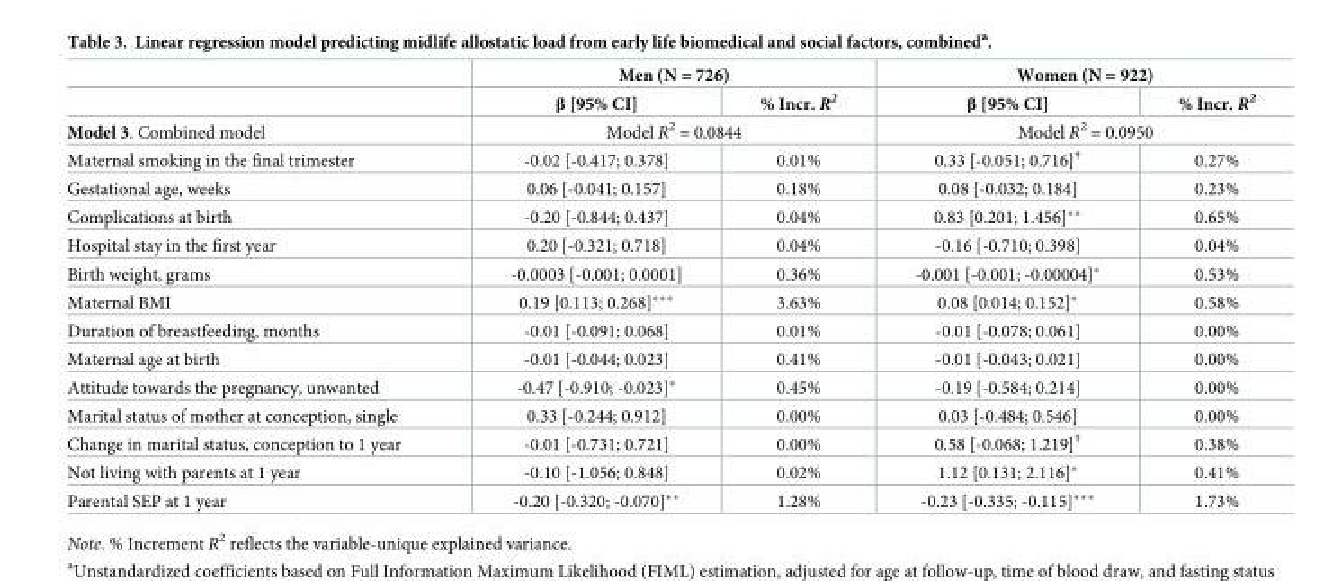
<table><thead><tr><td rowspan="2"></td><td colspan="2">Men (N = 726)</td><td colspan="2">Women (N = 922)</td></tr><tr><td>β [95% CI]</td><td>% Incr. R<sup>2</sup></td><td>β [95% CI]</td><td>% Incr. R<sup>2</sup></td></tr></thead><tbody><tr><td>Model 3. Combined model</td><td colspan="2">Model R<sup>2</sup> = 0.0844</td><td colspan="2">Model R<sup>2</sup> = 0.0950</td></tr><tr><td>Maternal smoking in the final trimester</td><td>-0.02 [-0.417; 0.378]</td><td>0.01%</td><td>0.33 [-0.051; 0.716]<sup>†</sup></td><td>0.27%</td></tr><tr><td>Gestational age, weeks</td><td>0.06 [-0.041; 0.157]</td><td>0.18%</td><td>0.08 [-0.032; 0.184]</td><td>0.23%</td></tr><tr><td>Complications at birth</td><td>-0.20 [-0.844; 0.437]</td><td>0.04%</td><td>0.83 [0.201; 1.456]**</td><td>0.65%</td></tr><tr><td>Hospital stay in the first year</td><td>0.20 [-0.321; 0.718]</td><td>0.04%</td><td>-0.16 [-0.710; 0.398]</td><td>0.04%</td></tr><tr><td>Birth weight, grams</td><td>-0.0003 [-0.001; 0.0001]</td><td>0.36%</td><td>-0.001 [-0.001; -0.00004]*</td><td>0.53%</td></tr><tr><td>Maternal BMI</td><td>0.19 [0.113; 0.268]***</td><td>3.63%</td><td>0.08 [0.014; 0.152]*</td><td>0.58%</td></tr><tr><td>Duration of breastfeeding, months</td><td>-0.01 [-0.091; 0.068]</td><td>0.01%</td><td>-0.01 [-0.078; 0.061]</td><td>0.00%</td></tr><tr><td>Maternal age at birth</td><td>-0.01 [-0.044; 0.023]</td><td>0.41%</td><td>-0.01 [-0.043; 0.021]</td><td>0.00%</td></tr><tr><td>Attitude towards the pregnancy, unwanted</td><td>-0.47 [-0.910; -0.023]*</td><td>0.45%</td><td>-0.19 [-0.584; 0.214]</td><td>0.00%</td></tr><tr><td>Marital status of mother at conception, single</td><td>0.33 [-0.244; 0.912]</td><td>0.00%</td><td>0.03 [-0.484; 0.546]</td><td>0.00%</td></tr><tr><td>Change in marital status, conception to 1 year</td><td>-0.01 [-0.731; 0.721]</td><td>0.00%</td><td>0.58 [-0.068; 1.219]<sup>†</sup></td><td>0.38%</td></tr><tr><td>Not living with parents at 1 year</td><td>-0.10 [-1.056; 0.848]</td><td>0.02%</td><td>1.12 [0.131; 2.116]*</td><td>0.41%</td></tr><tr><td>Parental SEP at 1 year</td><td>-0.20 [-0.320; -0.070]**</td><td>1.28%</td><td>-0.23 [-0.335; -0.115]***</td><td>1.73%</td></tr></tbody></table>